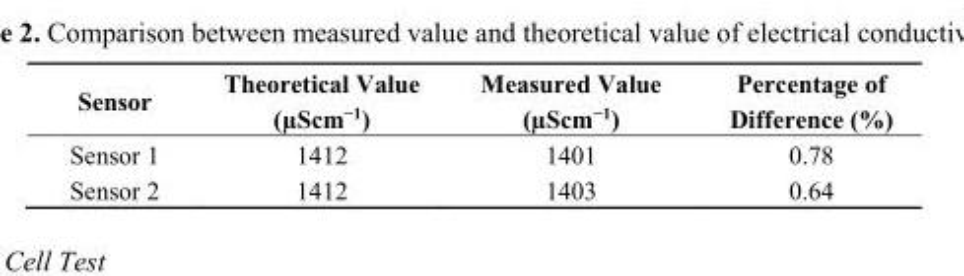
<table><thead><tr><td>Sensor</td><td>Theoretical Value (µScm<sup>−1</sup>)</td><td>Measured Value (µScm<sup>−1</sup>)</td><td>Percentage of Difference (%)</td></tr></thead><tbody><tr><td>Sensor 1</td><td>1412</td><td>1401</td><td>0.78</td></tr><tr><td>Sensor 2</td><td>1412</td><td>1403</td><td>0.64</td></tr></tbody></table>